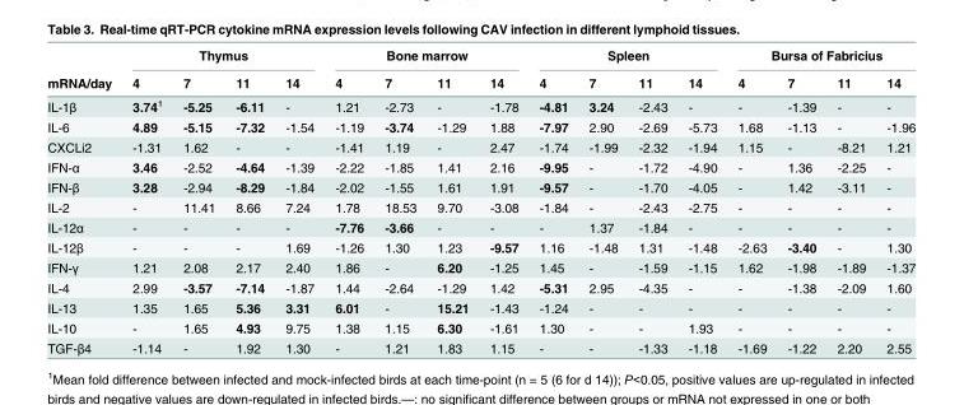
<table><thead><tr><td rowspan="2">mRNA/day</td><td colspan="4">Thymus</td><td colspan="4">Bone marrow</td><td colspan="4">Spleen</td><td colspan="4">Bursa of Fabricius</td></tr><tr><td>4</td><td>7</td><td>11</td><td>14</td><td>4</td><td>7</td><td>11</td><td>14</td><td>4</td><td>7</td><td>11</td><td>14</td><td>4</td><td>7</td><td>11</td><td>14</td></tr></thead><tbody><tr><td>IL-1β</td><td>3.74<sup>1</sup></td><td>-5.25</td><td>-6.11</td><td>-</td><td>1.21</td><td>-2.73</td><td>-</td><td>-1.78</td><td>-4.81</td><td>3.24</td><td>-2.43</td><td>-</td><td>-</td><td>-1.39</td><td>-</td><td>-</td></tr><tr><td>IL-6</td><td>4.89</td><td>-5.15</td><td>-7.32</td><td>-1.54</td><td>-1.19</td><td>-3.74</td><td>-1.29</td><td>1.88</td><td>-7.97</td><td>2.90</td><td>-2.69</td><td>-5.73</td><td>1.68</td><td>-1.13</td><td>-</td><td>-1.96</td></tr><tr><td>CXCLi2</td><td>-1.31</td><td>1.62</td><td>-</td><td>-</td><td>-1.41</td><td>1.19</td><td>-</td><td>2.47</td><td>-1.74</td><td>-1.99</td><td>-2.32</td><td>-1.94</td><td>1.15</td><td>-</td><td>-8.21</td><td>1.21</td></tr><tr><td>IFN-α</td><td>3.46</td><td>-2.52</td><td>-4.64</td><td>-1.39</td><td>-2.22</td><td>-1.85</td><td>1.41</td><td>2.16</td><td>-9.95</td><td>-</td><td>-1.72</td><td>-4.90</td><td>-</td><td>1.36</td><td>-2.25</td><td>-</td></tr><tr><td>IFN-β</td><td>3.28</td><td>-2.94</td><td>-8.29</td><td>-1.84</td><td>-2.02</td><td>-1.55</td><td>1.61</td><td>1.91</td><td>-9.57</td><td>-</td><td>-1.70</td><td>-4.05</td><td>-</td><td>1.42</td><td>-3.11</td><td>-</td></tr><tr><td>IL-2</td><td>-</td><td>11.41</td><td>8.66</td><td>7.24</td><td>1.78</td><td>18.53</td><td>9.70</td><td>-3.08</td><td>-1.84</td><td>-</td><td>-2.43</td><td>-2.75</td><td>-</td><td>-</td><td>-</td><td>-</td></tr><tr><td>IL-12α</td><td>-</td><td>-</td><td>-</td><td>-</td><td>-7.76</td><td>-3.66</td><td>-</td><td>-</td><td>-</td><td>1.37</td><td>-1.84</td><td>-</td><td>-</td><td>-</td><td>-</td><td>-</td></tr><tr><td>IL-12β</td><td>-</td><td>-</td><td>-</td><td>1.69</td><td>-1.26</td><td>1.30</td><td>1.23</td><td>-9.57</td><td>1.16</td><td>-1.48</td><td>1.31</td><td>-1.48</td><td>-2.63</td><td>-3.40</td><td>-</td><td>1.30</td></tr><tr><td>IFN-γ</td><td>1.21</td><td>2.08</td><td>2.17</td><td>2.40</td><td>1.86</td><td>-</td><td>6.20</td><td>-1.25</td><td>1.45</td><td>-</td><td>-1.59</td><td>-1.15</td><td>1.62</td><td>-1.98</td><td>-1.89</td><td>-1.37</td></tr><tr><td>IL-4</td><td>2.99</td><td>-3.57</td><td>-7.14</td><td>-1.87</td><td>1.44</td><td>-2.64</td><td>-1.29</td><td>1.42</td><td>-5.31</td><td>2.95</td><td>-4.35</td><td>-</td><td>-</td><td>-1.38</td><td>-2.09</td><td>1.60</td></tr><tr><td>IL-13</td><td>1.35</td><td>1.65</td><td>5.36</td><td>3.31</td><td>6.01</td><td>-</td><td>15.21</td><td>-1.43</td><td>-1.24</td><td>-</td><td>-</td><td>-</td><td>-</td><td>-</td><td>-</td><td>-</td></tr><tr><td>IL-10</td><td>-</td><td>1.65</td><td>4.93</td><td>9.75</td><td>1.38</td><td>1.15</td><td>6.30</td><td>-1.61</td><td>1.30</td><td>-</td><td>-</td><td>1.93</td><td>-</td><td>-</td><td>-</td><td>-</td></tr><tr><td>TGF-β4</td><td>-1.14</td><td>-</td><td>1.92</td><td>1.30</td><td>-</td><td>1.21</td><td>1.83</td><td>1.15</td><td>-</td><td>-</td><td>-1.33</td><td>-1.18</td><td>-1.69</td><td>-1.22</td><td>2.20</td><td>2.55</td></tr></tbody></table>